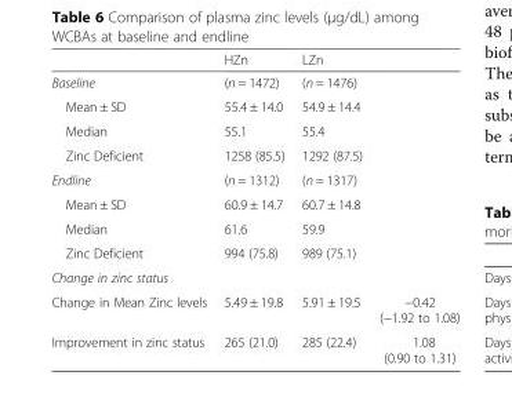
<table><thead><tr><td></td><td>HZn</td><td>LZn</td><td></td></tr></thead><tbody><tr><td>Baseline</td><td>(n = 1472)</td><td>(n = 1476)</td><td></td></tr><tr><td>Mean ± SD</td><td>55.4 ± 14.0</td><td>54.9 ± 14.4</td><td></td></tr><tr><td>Median</td><td>55.1</td><td>55.4</td><td></td></tr><tr><td>Zinc Deficient</td><td>1258 (85.5)</td><td>1292 (87.5)</td><td></td></tr><tr><td>Endline</td><td>(n = 1312)</td><td>(n = 1317)</td><td></td></tr><tr><td>Mean ± SD</td><td>60.9 ± 14.7</td><td>60.7 ± 14.8</td><td></td></tr><tr><td>Median</td><td>61.6</td><td>59.9</td><td></td></tr><tr><td>Zinc Deficient</td><td>994 (75.8)</td><td>989 (75.1)</td><td></td></tr><tr><td colspan="4">Change in zinc status</td></tr><tr><td>Change in Mean Zinc levels</td><td>5.49 ± 19.8</td><td>5.91 ± 19.5</td><td>−0.42 (−1.92 to 1.08)</td></tr><tr><td>Improvement in zinc status</td><td>265 (21.0)</td><td>285 (22.4)</td><td>1.08 (0.90 to 1.31)</td></tr></tbody></table>